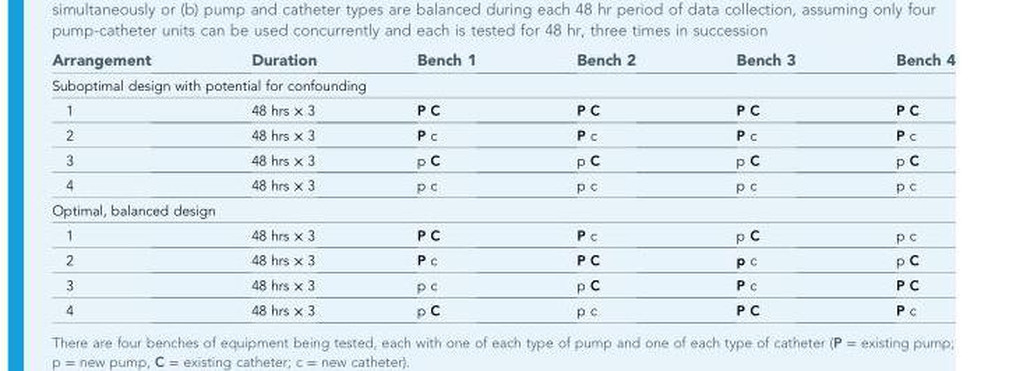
<table><thead><tr><td>Arrangement</td><td>Duration</td><td>Bench 1</td><td>Bench 2</td><td>Bench 3</td><td>Bench 4</td></tr></thead><tbody><tr><td colspan="6">Suboptimal design with potential for confounding</td></tr><tr><td>1</td><td>48 hrs × 3</td><td>P C</td><td>P C</td><td>P C</td><td>P C</td></tr><tr><td>2</td><td>48 hrs × 3</td><td>P c</td><td>P c</td><td>P c</td><td>P c</td></tr><tr><td>3</td><td>48 hrs × 3</td><td>p C</td><td>p C</td><td>p C</td><td>p C</td></tr><tr><td>4</td><td>48 hrs × 3</td><td>p c</td><td>p c</td><td>p c</td><td>p c</td></tr><tr><td colspan="6">Optimal, balanced design</td></tr><tr><td>1</td><td>48 hrs × 3</td><td>P C</td><td>P c</td><td>p C</td><td>p c</td></tr><tr><td>2</td><td>48 hrs × 3</td><td>P c</td><td>P C</td><td>p c</td><td>p C</td></tr><tr><td>3</td><td>48 hrs × 3</td><td>p c</td><td>p C</td><td>P c</td><td>P C</td></tr><tr><td>4</td><td>48 hrs × 3</td><td>p C</td><td>p c</td><td>P C</td><td>P c</td></tr></tbody></table>